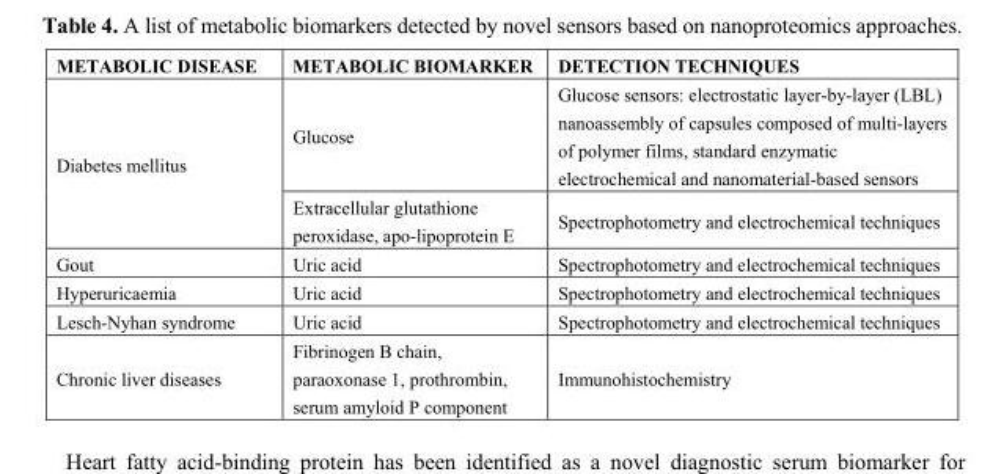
<table><thead><tr><td>METABOLIC DISEASE</td><td>METABOLIC BIOMARKER</td><td>DETECTION TECHNIQUES</td></tr></thead><tbody><tr><td rowspan="2">Diabetes mellitus</td><td>Glucose</td><td>Glucose sensors: electrostatic layer-by-layer (LBL) nanoassembly of capsules composed of multi-layers of polymer films, standard enzymatic electrochemical and nanomaterial-based sensors</td></tr><tr><td>Extracellular glutathione peroxidase, apo-lipoprotein E</td><td>Spectrophotometry and electrochemical techniques</td></tr><tr><td>Gout</td><td>Uric acid</td><td>Spectrophotometry and electrochemical techniques</td></tr><tr><td>Hyperuricaemia</td><td>Uric acid</td><td>Spectrophotometry and electrochemical techniques</td></tr><tr><td>Lesch-Nyhan syndrome</td><td>Uric acid</td><td>Spectrophotometry and electrochemical techniques</td></tr><tr><td>Chronic liver diseases</td><td>Fibrinogen B chain, paraoxonase 1, prothrombin, serum amyloid P component</td><td>Immunohistochemistry</td></tr></tbody></table>